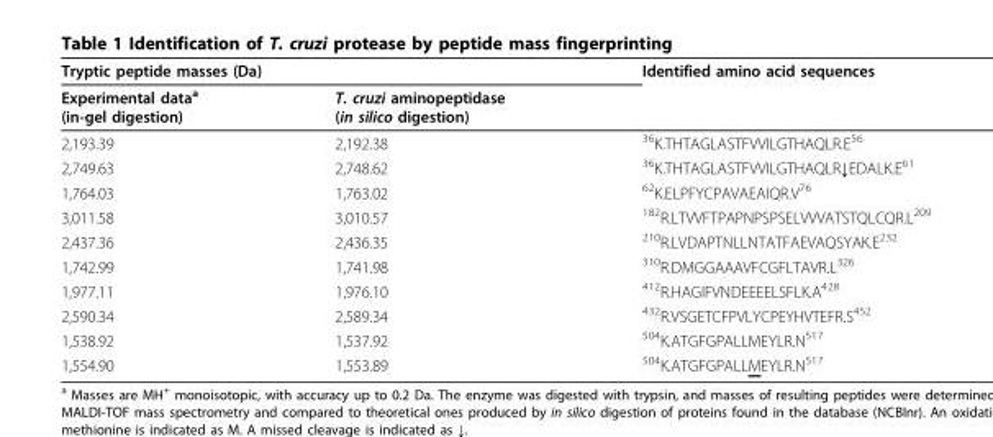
<table><thead><tr><td colspan="2">Tryptic peptide masses (Da)</td><td rowspan="2">Identified amino acid sequences</td></tr><tr><td>Experimental data<sup>a</sup> (in-gel digestion)</td><td>T. cruzi aminopeptidase (in silico digestion)</td></tr></thead><tbody><tr><td>2,193.39</td><td>2,192.38</td><td><sup>36</sup>K.THTAGLASTFVVILGTHAQLR.E<sup>56</sup></td></tr><tr><td>2,749.63</td><td>2,748.62</td><td><sup>36</sup>K.THTAGLASTFVVILGTHAQLR↓EDALK.E<sup>61</sup></td></tr><tr><td>1,764.03</td><td>1,763.02</td><td><sup>62</sup>K.ELPFYCPAVAEAIQR.V<sup>76</sup></td></tr><tr><td>3,011.58</td><td>3,010.57</td><td><sup>182</sup>R.LTVVFTPAPNPSPSELVVVATSTQLCQR.L<sup>209</sup></td></tr><tr><td>2,437.36</td><td>2,436.35</td><td><sup>210</sup>R.LVDAPTNLLNTATFAEVAQSYAK.E<sup>232</sup></td></tr><tr><td>1,742.99</td><td>1,741.98</td><td><sup>310</sup>R.DMGGAAAVFCGFLTAVR.L<sup>326</sup></td></tr><tr><td>1,977.11</td><td>1,976.10</td><td><sup>412</sup>R.HAGIFVNDEEEELSFLK.A<sup>428</sup></td></tr><tr><td>2,590.34</td><td>2,589.34</td><td><sup>432</sup>R.VSGETCFPVLYCPEYHVTEFR.S<sup>452</sup></td></tr><tr><td>1,538.92</td><td>1,537.92</td><td><sup>504</sup>K.ATGFGPALLMEYLR.N<sup>517</sup></td></tr><tr><td>1,554.90</td><td>1,553.89</td><td><sup>504</sup>K.ATGFGPALLMEYLR.N<sup>517</sup></td></tr></tbody></table>